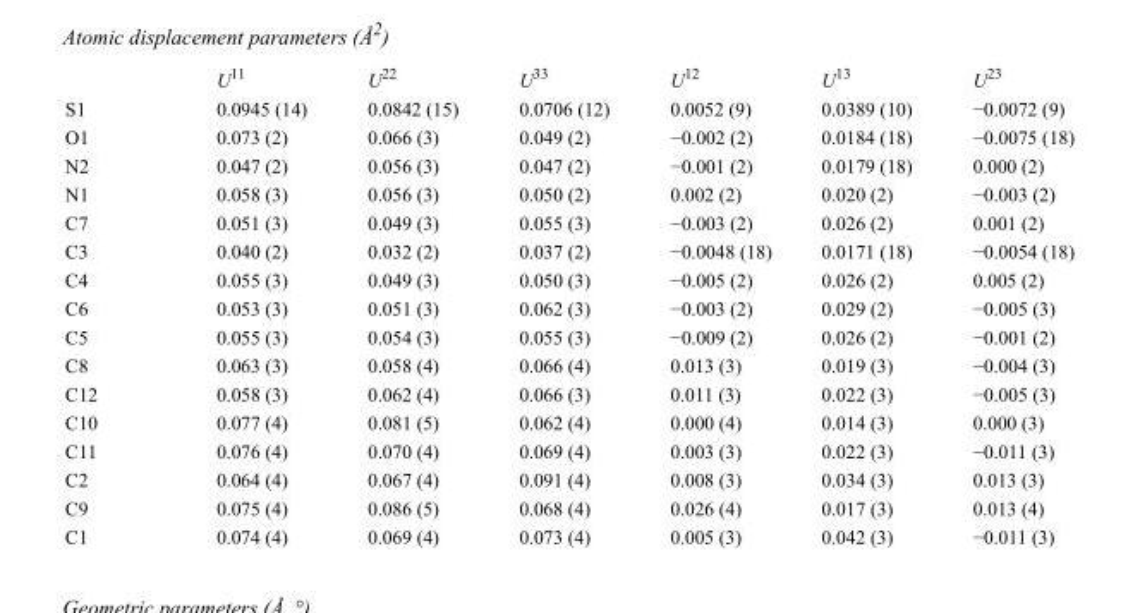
<table><thead><tr><td></td><td>U<sup>11</sup></td><td>U<sup>22</sup></td><td>U<sup>33</sup></td><td>U<sup>12</sup></td><td>U<sup>13</sup></td><td>U<sup>23</sup></td></tr></thead><tbody><tr><td>S1</td><td>0.0945 (14)</td><td>0.0842 (15)</td><td>0.0706 (12)</td><td>0.0052 (9)</td><td>0.0389 (10)</td><td>−0.0072 (9)</td></tr><tr><td>O1</td><td>0.073 (2)</td><td>0.066 (3)</td><td>0.049 (2)</td><td>−0.002 (2)</td><td>0.0184 (18)</td><td>−0.0075 (18)</td></tr><tr><td>N2</td><td>0.047 (2)</td><td>0.056 (3)</td><td>0.047 (2)</td><td>−0.001 (2)</td><td>0.0179 (18)</td><td>0.000 (2)</td></tr><tr><td>N1</td><td>0.058 (3)</td><td>0.056 (3)</td><td>0.050 (2)</td><td>0.002 (2)</td><td>0.020 (2)</td><td>−0.003 (2)</td></tr><tr><td>C7</td><td>0.051 (3)</td><td>0.049 (3)</td><td>0.055 (3)</td><td>−0.003 (2)</td><td>0.026 (2)</td><td>0.001 (2)</td></tr><tr><td>C3</td><td>0.040 (2)</td><td>0.032 (2)</td><td>0.037 (2)</td><td>−0.0048 (18)</td><td>0.0171 (18)</td><td>−0.0054 (18)</td></tr><tr><td>C4</td><td>0.055 (3)</td><td>0.049 (3)</td><td>0.050 (3)</td><td>−0.005 (2)</td><td>0.026 (2)</td><td>0.005 (2)</td></tr><tr><td>C6</td><td>0.053 (3)</td><td>0.051 (3)</td><td>0.062 (3)</td><td>−0.003 (2)</td><td>0.029 (2)</td><td>−0.005 (3)</td></tr><tr><td>C5</td><td>0.055 (3)</td><td>0.054 (3)</td><td>0.055 (3)</td><td>−0.009 (2)</td><td>0.026 (2)</td><td>−0.001 (2)</td></tr><tr><td>C8</td><td>0.063 (3)</td><td>0.058 (4)</td><td>0.066 (4)</td><td>0.013 (3)</td><td>0.019 (3)</td><td>−0.004 (3)</td></tr><tr><td>C12</td><td>0.058 (3)</td><td>0.062 (4)</td><td>0.066 (3)</td><td>0.011 (3)</td><td>0.022 (3)</td><td>−0.005 (3)</td></tr><tr><td>C10</td><td>0.077 (4)</td><td>0.081 (5)</td><td>0.062 (4)</td><td>0.000 (4)</td><td>0.014 (3)</td><td>0.000 (3)</td></tr><tr><td>C11</td><td>0.076 (4)</td><td>0.070 (4)</td><td>0.069 (4)</td><td>0.003 (3)</td><td>0.022 (3)</td><td>−0.011 (3)</td></tr><tr><td>C2</td><td>0.064 (4)</td><td>0.067 (4)</td><td>0.091 (4)</td><td>0.008 (3)</td><td>0.034 (3)</td><td>0.013 (3)</td></tr><tr><td>C9</td><td>0.075 (4)</td><td>0.086 (5)</td><td>0.068 (4)</td><td>0.026 (4)</td><td>0.017 (3)</td><td>0.013 (4)</td></tr><tr><td>C1</td><td>0.074 (4)</td><td>0.069 (4)</td><td>0.073 (4)</td><td>0.005 (3)</td><td>0.042 (3)</td><td>−0.011 (3)</td></tr></tbody></table>